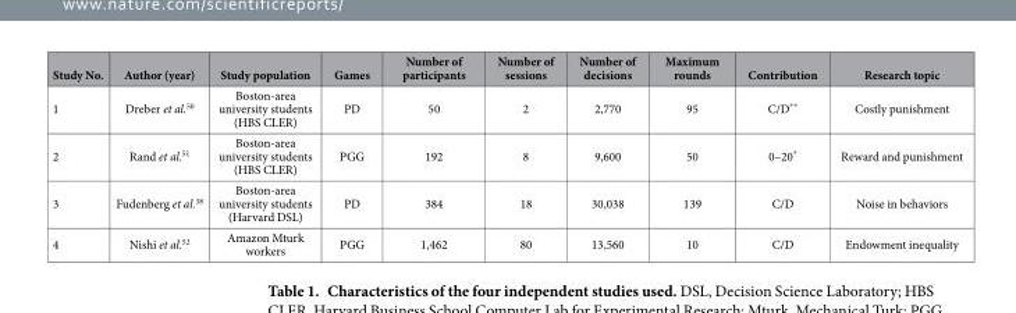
<table><thead><tr><td>Study No.</td><td>Author (year)</td><td>Study population</td><td>Games</td><td>Number of participants</td><td>Number of sessions</td><td>Number of decisions</td><td>Maximum rounds</td><td>Contribution</td><td>Research topic</td></tr></thead><tbody><tr><td>1</td><td>Dreber et al.<sup>50</sup></td><td>Boston-area university students (HBS CLER)</td><td>PD</td><td>50</td><td>2</td><td>2,770</td><td>95</td><td>C/D**</td><td>Costly punishment</td></tr><tr><td>2</td><td>Rand et al.<sup>51</sup></td><td>Boston-area university students (HBS CLER)</td><td>PGG</td><td>192</td><td>8</td><td>9,600</td><td>50</td><td>0–20*</td><td>Reward and punishment</td></tr><tr><td>3</td><td>Fudenberg et al.<sup>38</sup></td><td>Boston-area university students (Harvard DSL)</td><td>PD</td><td>384</td><td>18</td><td>30,038</td><td>139</td><td>C/D</td><td>Noise in behaviors</td></tr><tr><td>4</td><td>Nishi et al.<sup>52</sup></td><td>Amazon Mturk workers</td><td>PGG</td><td>1,462</td><td>80</td><td>13,560</td><td>10</td><td>C/D</td><td>Endowment inequality</td></tr></tbody></table>